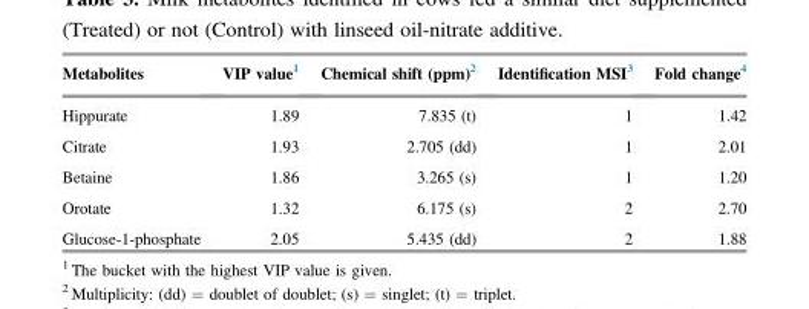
<table><thead><tr><td>Metabolites</td><td>VIP value<sup>1</sup></td><td>Chemical shift (ppm)<sup>2</sup></td><td>Identification MSI<sup>3</sup></td><td>Fold change<sup>4</sup></td></tr></thead><tbody><tr><td>Hippurate</td><td>1.89</td><td>7.835 (t)</td><td>1</td><td>1.42</td></tr><tr><td>Citrate</td><td>1.93</td><td>2.705 (dd)</td><td>1</td><td>2.01</td></tr><tr><td>Betaine</td><td>1.86</td><td>3.265 (s)</td><td>1</td><td>1.20</td></tr><tr><td>Orotate</td><td>1.32</td><td>6.175 (s)</td><td>2</td><td>2.70</td></tr><tr><td>Glucose-1-phosphate</td><td>2.05</td><td>5.435 (dd)</td><td>2</td><td>1.88</td></tr></tbody></table>